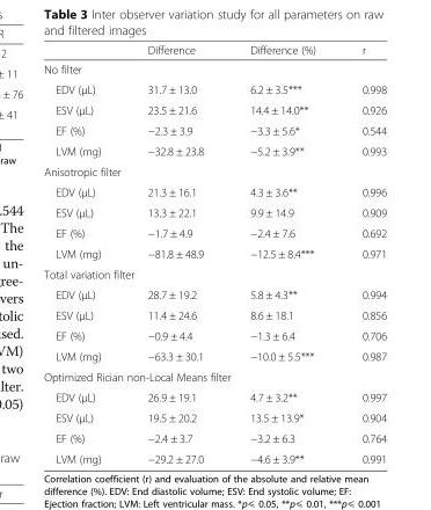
<table><thead><tr><td></td><td>Difference</td><td>Difference (%)</td><td>r</td></tr></thead><tbody><tr><td colspan="4">No filter</td></tr><tr><td>EDV (μL)</td><td>31.7 ± 13.0</td><td>6.2 ± 3.5***</td><td>0.998</td></tr><tr><td>ESV (μL)</td><td>23.5 ± 21.6</td><td>14.4 ± 14.0**</td><td>0.926</td></tr><tr><td>EF (%)</td><td>−2.3 ± 3.9</td><td>−3.3 ± 5.6*</td><td>0.544</td></tr><tr><td>LVM (mg)</td><td>−32.8 ± 23.8</td><td>−5.2 ± 3.9**</td><td>0.993</td></tr><tr><td colspan="4">Anisotropic filter</td></tr><tr><td>EDV (μL)</td><td>21.3 ± 16.1</td><td>4.3 ± 3.6**</td><td>0.996</td></tr><tr><td>ESV (μL)</td><td>13.3 ± 22.1</td><td>9.9 ± 14.9</td><td>0.909</td></tr><tr><td>EF (%)</td><td>−1.7 ± 4.9</td><td>−2.4 ± 7.6</td><td>0.692</td></tr><tr><td>LVM (mg)</td><td>−81.8 ± 48.9</td><td>−12.5 ± 8.4***</td><td>0.971</td></tr><tr><td colspan="4">Total variation filter</td></tr><tr><td>EDV (μL)</td><td>28.7 ± 19.2</td><td>5.8 ± 4.3**</td><td>0.994</td></tr><tr><td>ESV (μL)</td><td>11.4 ± 24.6</td><td>8.6 ± 18.1</td><td>0.856</td></tr><tr><td>EF (%)</td><td>−0.9 ± 4.4</td><td>−1.3 ± 6.4</td><td>0.706</td></tr><tr><td>LVM (mg)</td><td>−63.3 ± 30.1</td><td>−10.0 ± 5.5***</td><td>0.987</td></tr><tr><td colspan="4">Optimized Rician non-Local Means filter</td></tr><tr><td>EDV (μL)</td><td>26.9 ± 19.1</td><td>4.7 ± 3.2**</td><td>0.997</td></tr><tr><td>ESV (μL)</td><td>19.5 ± 20.2</td><td>13.5 ± 13.9*</td><td>0.904</td></tr><tr><td>EF (%)</td><td>−2.4 ± 3.7</td><td>−3.2 ± 6.3</td><td>0.764</td></tr><tr><td>LVM (mg)</td><td>−29.2 ± 27.0</td><td>−4.6 ± 3.9**</td><td>0.991</td></tr></tbody></table>